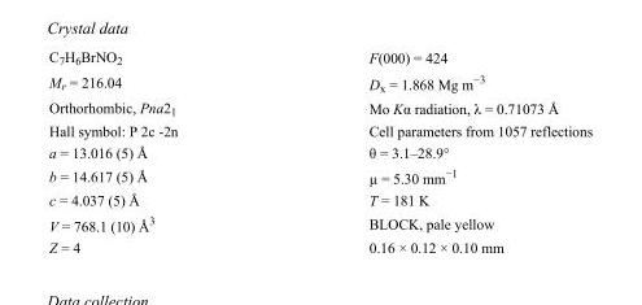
<table><tbody><tr><td>C<sub>7</sub>H<sub>6</sub>BrNO<sub>2</sub></td><td>F(000) = 424</td></tr><tr><td>M<sub>r</sub> = 216.04</td><td>D<sub>x</sub> = 1.868 Mg m<sup>−3</sup></td></tr><tr><td>Orthorhombic, Pna2<sub>1</sub></td><td>Mo Kα radiation, λ = 0.71073 Å</td></tr><tr><td>Hall symbol: P 2c -2n</td><td>Cell parameters from 1057 reflections</td></tr><tr><td>a = 13.016 (5) Å</td><td>θ = 3.1–28.9°</td></tr><tr><td>b = 14.617 (5) Å</td><td>µ = 5.30 mm<sup>−1</sup></td></tr><tr><td>c = 4.037 (5) Å</td><td>T = 181 K</td></tr><tr><td>V = 768.1 (10) Å<sup>3</sup></td><td>BLOCK, pale yellow</td></tr><tr><td>Z = 4</td><td>0.16 × 0.12 × 0.10 mm</td></tr></tbody></table>